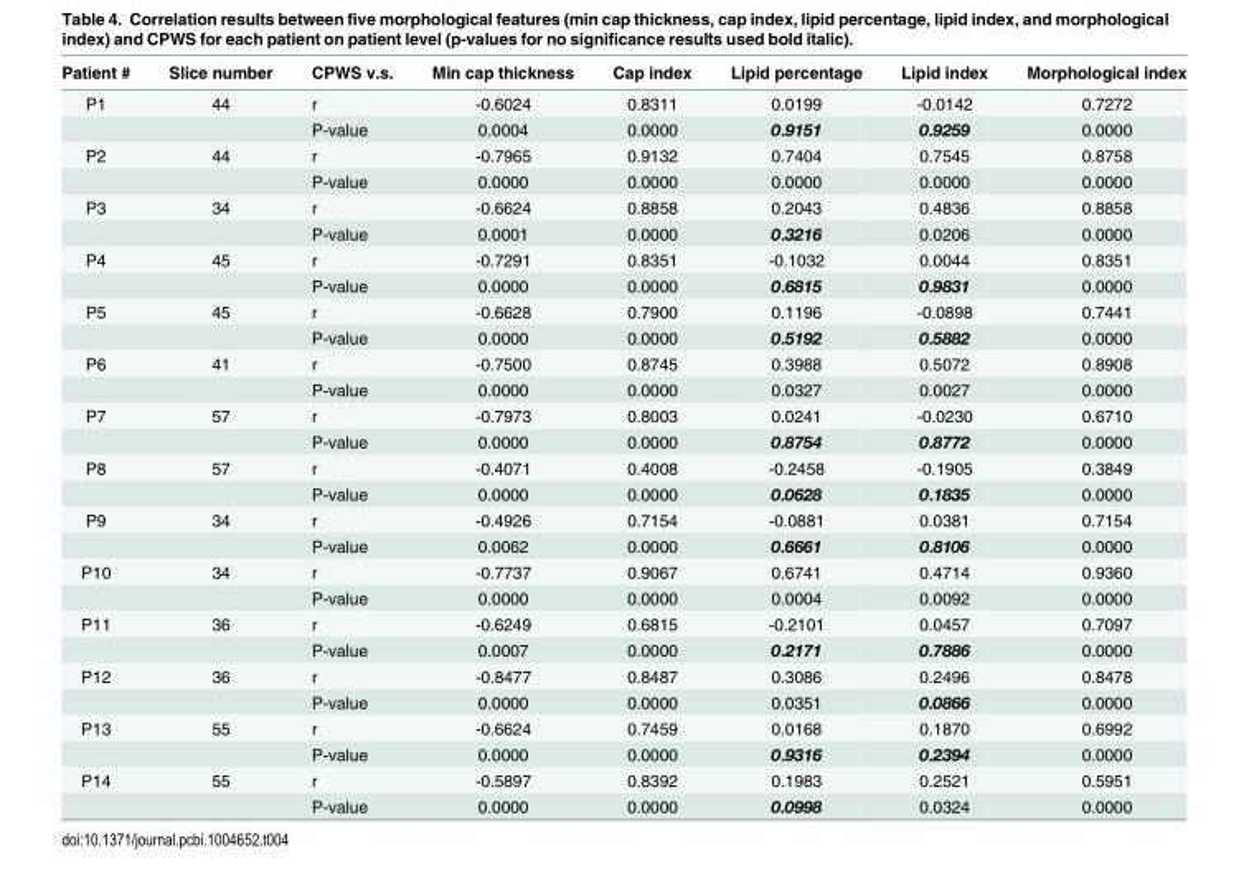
<table><thead><tr><td>Patient #</td><td>Slice number</td><td>CPWS v.s.</td><td>Min cap thickness</td><td>Cap index</td><td>Lipid percentage</td><td>Lipid index</td><td>Morphological index</td></tr></thead><tbody><tr><td rowspan="2">P1</td><td>44</td><td>r</td><td>-0.6024</td><td>0.8311</td><td>0.0199</td><td>-0.0142</td><td>0.7272</td></tr><tr><td></td><td>P-value</td><td>0.0004</td><td>0.0000</td><td>0.9151</td><td>0.9259</td><td>0.0000</td></tr><tr><td rowspan="2">P2</td><td>44</td><td>r</td><td>-0.7965</td><td>0.9132</td><td>0.7404</td><td>0.7545</td><td>0.8758</td></tr><tr><td></td><td>P-value</td><td>0.0000</td><td>0.0000</td><td>0.0000</td><td>0.0000</td><td>0.0000</td></tr><tr><td rowspan="2">P3</td><td>34</td><td>r</td><td>-0.6624</td><td>0.8858</td><td>0.2043</td><td>0.4836</td><td>0.8858</td></tr><tr><td></td><td>P-value</td><td>0.0001</td><td>0.0000</td><td>0.3216</td><td>0.0206</td><td>0.0000</td></tr><tr><td rowspan="2">P4</td><td>45</td><td>r</td><td>-0.7291</td><td>0.8351</td><td>-0.1032</td><td>0.0044</td><td>0.8351</td></tr><tr><td></td><td>P-value</td><td>0.0000</td><td>0.0000</td><td>0.6815</td><td>0.9831</td><td>0.0000</td></tr><tr><td rowspan="2">P5</td><td>45</td><td>r</td><td>-0.6628</td><td>0.7900</td><td>0.1196</td><td>-0.0898</td><td>0.7441</td></tr><tr><td></td><td>P-value</td><td>0.0000</td><td>0.0000</td><td>0.5192</td><td>0.5882</td><td>0.0000</td></tr><tr><td rowspan="2">P6</td><td>41</td><td>r</td><td>-0.7500</td><td>0.8745</td><td>0.3988</td><td>0.5072</td><td>0.8908</td></tr><tr><td></td><td>P-value</td><td>0.0000</td><td>0.0000</td><td>0.0327</td><td>0.0027</td><td>0.0000</td></tr><tr><td rowspan="2">P7</td><td>57</td><td>r</td><td>-0.7973</td><td>0.8003</td><td>0.0241</td><td>-0.0230</td><td>0.6710</td></tr><tr><td></td><td>P-value</td><td>0.0000</td><td>0.0000</td><td>0.8754</td><td>0.8772</td><td>0.0000</td></tr><tr><td rowspan="2">P8</td><td>57</td><td>r</td><td>-0.4071</td><td>0.4008</td><td>-0.2458</td><td>-0.1905</td><td>0.3849</td></tr><tr><td></td><td>P-value</td><td>0.0000</td><td>0.0000</td><td>0.0628</td><td>0.1835</td><td>0.0000</td></tr><tr><td rowspan="2">P9</td><td>34</td><td>r</td><td>-0.4926</td><td>0.7154</td><td>-0.0881</td><td>0.0381</td><td>0.7154</td></tr><tr><td></td><td>P-value</td><td>0.0062</td><td>0.0000</td><td>0.6661</td><td>0.8106</td><td>0.0000</td></tr><tr><td rowspan="2">P10</td><td>34</td><td>r</td><td>-0.7737</td><td>0.9067</td><td>0.6741</td><td>0.4714</td><td>0.9360</td></tr><tr><td></td><td>P-value</td><td>0.0000</td><td>0.0000</td><td>0.0004</td><td>0.0092</td><td>0.0000</td></tr><tr><td rowspan="2">P11</td><td>36</td><td>r</td><td>-0.6249</td><td>0.6815</td><td>-0.2101</td><td>0.0457</td><td>0.7097</td></tr><tr><td></td><td>P-value</td><td>0.0007</td><td>0.0000</td><td>0.2171</td><td>0.7886</td><td>0.0000</td></tr><tr><td rowspan="2">P12</td><td>36</td><td>r</td><td>-0.8477</td><td>0.8487</td><td>0.3086</td><td>0.2496</td><td>0.8478</td></tr><tr><td></td><td>P-value</td><td>0.0000</td><td>0.0000</td><td>0.0351</td><td>0.0866</td><td>0.0000</td></tr><tr><td rowspan="2">P13</td><td>55</td><td>r</td><td>-0.6624</td><td>0.7459</td><td>0.0168</td><td>0.1870</td><td>0.6992</td></tr><tr><td></td><td>P-value</td><td>0.0000</td><td>0.0000</td><td>0.9316</td><td>0.2394</td><td>0.0000</td></tr><tr><td rowspan="2">P14</td><td>55</td><td>r</td><td>-0.5897</td><td>0.8392</td><td>0.1983</td><td>0.2521</td><td>0.5951</td></tr><tr><td></td><td>P-value</td><td>0.0000</td><td>0.0000</td><td>0.0998</td><td>0.0324</td><td>0.0000</td></tr></tbody></table>